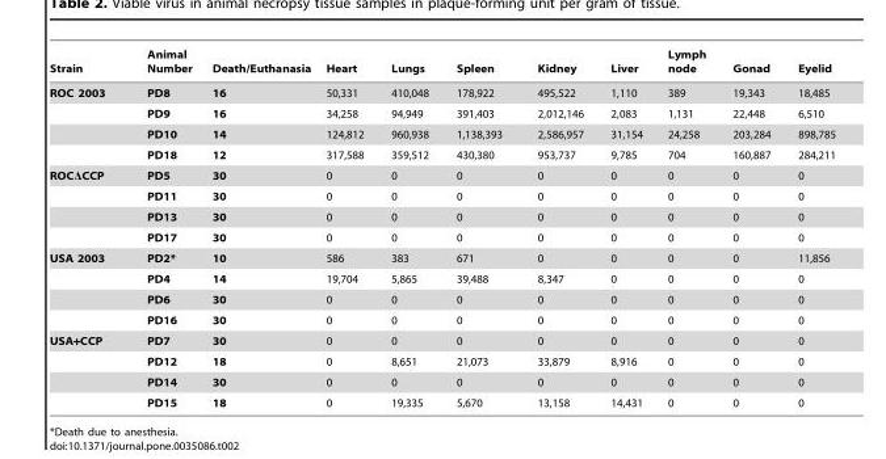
<table><thead><tr><td>Strain</td><td>Animal Number</td><td>Death/Euthanasia</td><td>Heart</td><td>Lungs</td><td>Spleen</td><td>Kidney</td><td>Liver</td><td>Lymph node</td><td>Gonad</td><td>Eyelid</td></tr></thead><tbody><tr><td rowspan="4">ROC 2003</td><td>PD8</td><td>16</td><td>50,331</td><td>410,048</td><td>178,922</td><td>495,522</td><td>1,110</td><td>389</td><td>19,343</td><td>18,485</td></tr><tr><td>PD9</td><td>16</td><td>34,258</td><td>94,949</td><td>391,403</td><td>2,012,146</td><td>2,083</td><td>1,131</td><td>22,448</td><td>6,510</td></tr><tr><td>PD10</td><td>14</td><td>124,812</td><td>960,938</td><td>1,138,393</td><td>2,586,957</td><td>31,154</td><td>24,258</td><td>203,284</td><td>898,785</td></tr><tr><td>PD18</td><td>12</td><td>317,588</td><td>359,512</td><td>430,380</td><td>953,737</td><td>9,785</td><td>704</td><td>160,887</td><td>284,211</td></tr><tr><td rowspan="4">ROCΔCCP</td><td>PD5</td><td>30</td><td>0</td><td>0</td><td>0</td><td>0</td><td>0</td><td>0</td><td>0</td><td>0</td></tr><tr><td>PD11</td><td>30</td><td>0</td><td>0</td><td>0</td><td>0</td><td>0</td><td>0</td><td>0</td><td>0</td></tr><tr><td>PD13</td><td>30</td><td>0</td><td>0</td><td>0</td><td>0</td><td>0</td><td>0</td><td>0</td><td>0</td></tr><tr><td>PD17</td><td>30</td><td>0</td><td>0</td><td>0</td><td>0</td><td>0</td><td>0</td><td>0</td><td>0</td></tr><tr><td rowspan="4">USA 2003</td><td>PD2*</td><td>10</td><td>586</td><td>383</td><td>671</td><td>0</td><td>0</td><td>0</td><td>0</td><td>11,856</td></tr><tr><td>PD4</td><td>14</td><td>19,704</td><td>5,865</td><td>39,488</td><td>8,347</td><td>0</td><td>0</td><td>0</td><td>0</td></tr><tr><td>PD6</td><td>30</td><td>0</td><td>0</td><td>0</td><td>0</td><td>0</td><td>0</td><td>0</td><td>0</td></tr><tr><td>PD16</td><td>30</td><td>0</td><td>0</td><td>0</td><td>0</td><td>0</td><td>0</td><td>0</td><td>0</td></tr><tr><td rowspan="4">USA+CCP</td><td>PD7</td><td>30</td><td>0</td><td>0</td><td>0</td><td>0</td><td>0</td><td>0</td><td>0</td><td>0</td></tr><tr><td>PD12</td><td>18</td><td>0</td><td>8,651</td><td>21,073</td><td>33,879</td><td>8,916</td><td>0</td><td>0</td><td>0</td></tr><tr><td>PD14</td><td>30</td><td>0</td><td>0</td><td>0</td><td>0</td><td>0</td><td>0</td><td>0</td><td>0</td></tr><tr><td>PD15</td><td>18</td><td>0</td><td>19,335</td><td>5,670</td><td>13,158</td><td>14,431</td><td>0</td><td>0</td><td>0</td></tr></tbody></table>